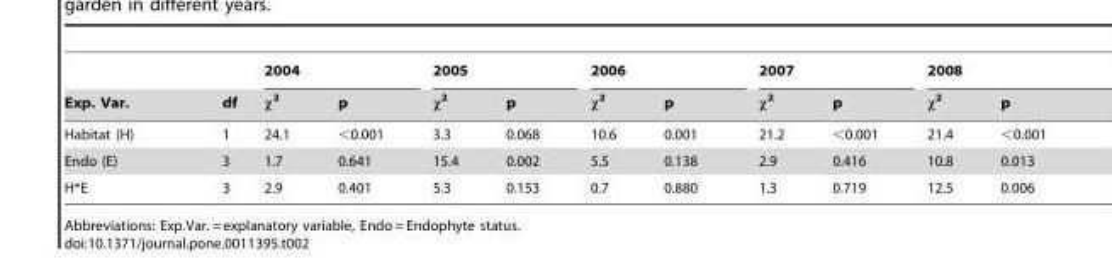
<table><thead><tr><td rowspan="2">Exp. Var.</td><td rowspan="2">df</td><td colspan="2">2004</td><td colspan="2">2005</td><td colspan="2">2006</td><td colspan="2">2007</td><td colspan="2">2008</td></tr><tr><td>χ<sup>2</sup></td><td>p</td><td>χ<sup>2</sup></td><td>p</td><td>χ<sup>2</sup></td><td>p</td><td>χ<sup>2</sup></td><td>p</td><td>χ<sup>2</sup></td><td>p</td></tr></thead><tbody><tr><td>Habitat (H)</td><td>1</td><td>24.1</td><td>&lt;0.001</td><td>3.3</td><td>0.068</td><td>10.6</td><td>0.001</td><td>21.2</td><td>&lt;0.001</td><td>21.4</td><td>&lt;0.001</td></tr><tr><td>Endo (E)</td><td>3</td><td>1.7</td><td>0.641</td><td>15.4</td><td>0.002</td><td>5.5</td><td>0.138</td><td>2.9</td><td>0.416</td><td>10.8</td><td>0.013</td></tr><tr><td>H*E</td><td>3</td><td>2.9</td><td>0.401</td><td>5.3</td><td>0.153</td><td>0.7</td><td>0.880</td><td>1.3</td><td>0.719</td><td>12.5</td><td>0.006</td></tr></tbody></table>